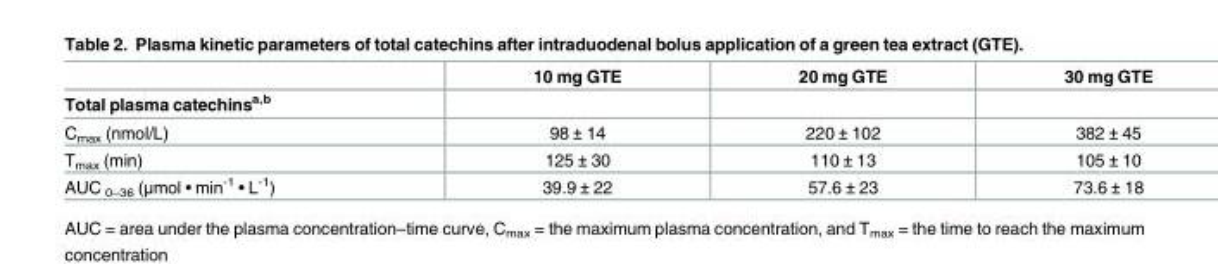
<table><thead><tr><td rowspan="2">Total plasma catechins<sup>a,b</sup></td><td rowspan="2">10 mg GTE</td><td rowspan="2">20 mg GTE</td><td rowspan="2">30 mg GTE</td></tr><tr></tr></thead><tbody><tr><td>C<sub>max</sub> (nmol/L)</td><td>98 ± 14</td><td>220 ± 102</td><td>382 ± 45</td></tr><tr><td>T<sub>max</sub> (min)</td><td>125 ± 30</td><td>110 ± 13</td><td>105 ± 10</td></tr><tr><td>AUC <sub>0–36</sub> (μmol • min<sup>-1</sup> • L<sup>-1</sup>)</td><td>39.9 ± 22</td><td>57.6 ± 23</td><td>73.6 ± 18</td></tr></tbody></table>